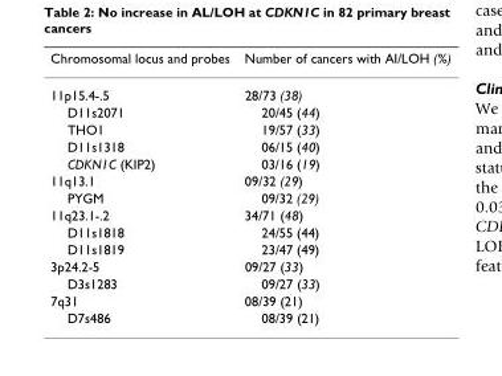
<table><thead><tr><td>Chromosomal locus and probes</td><td>Number of cancers with AI/LOH (%)</td></tr></thead><tbody><tr><td>11p15.4-.5</td><td>28/73 (38)</td></tr><tr><td>D11s2071</td><td>20/45 (44)</td></tr><tr><td>THO1</td><td>19/57 (33)</td></tr><tr><td>D11s1318</td><td>06/15 (40)</td></tr><tr><td>CDKN1C (KIP2)</td><td>03/16 (19)</td></tr><tr><td>11q13.1</td><td>09/32 (29)</td></tr><tr><td>PYGM</td><td>09/32 (29)</td></tr><tr><td>11q23.1-.2</td><td>34/71 (48)</td></tr><tr><td>D11s1818</td><td>24/55 (44)</td></tr><tr><td>D11s1819</td><td>23/47 (49)</td></tr><tr><td>3p24.2-5</td><td>09/27 (33)</td></tr><tr><td>D3s1283</td><td>09/27 (33)</td></tr><tr><td>7q31</td><td>08/39 (21)</td></tr><tr><td>D7s486</td><td>08/39 (21)</td></tr></tbody></table>